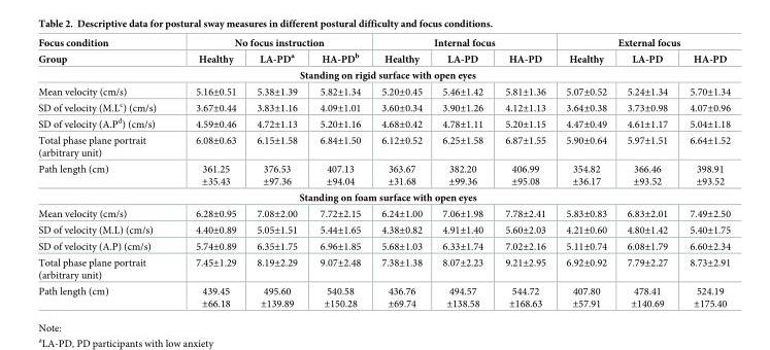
<table><thead><tr><td rowspan="2">Focus condition Group</td><td colspan="3">No focus instruction</td><td colspan="3">Internal focus</td><td colspan="3">External focus</td></tr><tr><td>Healthy</td><td>LA-PD<sup>a</sup></td><td>HA-PD<sup>b</sup></td><td>Healthy</td><td>LA-PD</td><td>HA-PD</td><td>Healthy</td><td>LA-PD</td><td>HA-PD</td></tr></thead><tbody><tr><td colspan="10">Standing on rigid surface with open eyes</td></tr><tr><td>Mean velocity (cm/s)</td><td>5.16±0.51</td><td>5.38±1.39</td><td>5.82±1.34</td><td>5.20±0.45</td><td>5.46±1.42</td><td>5.81±1.36</td><td>5.07±0.52</td><td>5.24±1.34</td><td>5.70±1.34</td></tr><tr><td>SD of velocity (M.L<sup>c</sup>) (cm/s)</td><td>3.67±0.44</td><td>3.83±1.16</td><td>4.09±1.01</td><td>3.60±0.34</td><td>3.90±1.26</td><td>4.12±1.13</td><td>3.64±0.38</td><td>3.73±0.98</td><td>4.07±0.96</td></tr><tr><td>SD of velocity (A.P<sup>d</sup>) (cm/s)</td><td>4.59±0.46</td><td>4.72±1.13</td><td>5.20±1.16</td><td>4.68±0.42</td><td>4.78±1.11</td><td>5.20±1.15</td><td>4.47±0.49</td><td>4.61±1.17</td><td>5.04±1.18</td></tr><tr><td>Total phase plane portrait (arbitrary unit)</td><td>6.08±0.63</td><td>6.15±1.58</td><td>6.84±1.50</td><td>6.12±0.52</td><td>6.25±1.58</td><td>6.87±1.55</td><td>5.90±0.64</td><td>5.97±1.51</td><td>6.64±1.52</td></tr><tr><td>Path length (cm)</td><td>361.25 ±35.43</td><td>376.53 ±97.36</td><td>407.13 ±94.04</td><td>363.67 ±31.68</td><td>382.20 ±99.36</td><td>406.99 ±95.08</td><td>354.82 ±36.17</td><td>366.46 ±93.52</td><td>398.91 ±93.52</td></tr><tr><td colspan="10">Standing on foam surface with open eyes</td></tr><tr><td>Mean velocity (cm/s)</td><td>6.28±0.95</td><td>7.08±2.00</td><td>7.72±2.15</td><td>6.24±1.00</td><td>7.06±1.98</td><td>7.78±2.41</td><td>5.83±0.83</td><td>6.83±2.01</td><td>7.49±2.50</td></tr><tr><td>SD of velocity (M.L) (cm/s)</td><td>4.40±0.89</td><td>5.05±1.51</td><td>5.44±1.65</td><td>4.38±0.82</td><td>4.91±1.40</td><td>5.60±2.03</td><td>4.21±0.60</td><td>4.80±1.42</td><td>5.40±1.75</td></tr><tr><td>SD of velocity (A.P) (cm/s)</td><td>5.74±0.89</td><td>6.35±1.75</td><td>6.96±1.85</td><td>5.68±1.03</td><td>6.33±1.74</td><td>7.02±2.16</td><td>5.11±0.74</td><td>6.08±1.79</td><td>6.60±2.34</td></tr><tr><td>Total phase plane portrait (arbitrary unit)</td><td>7.45±1.29</td><td>8.19±2.29</td><td>9.07±2.48</td><td>7.38±1.38</td><td>8.07±2.23</td><td>9.21±2.95</td><td>6.92±0.92</td><td>7.79±2.27</td><td>8.73±2.91</td></tr><tr><td>Path length (cm)</td><td>439.45 ±66.18</td><td>495.60 ±139.89</td><td>540.58 ±150.28</td><td>436.76 ±69.74</td><td>494.57 ±138.58</td><td>544.72 ±168.63</td><td>407.80 ±57.91</td><td>478.41 ±140.69</td><td>524.19 ±175.40</td></tr></tbody></table>